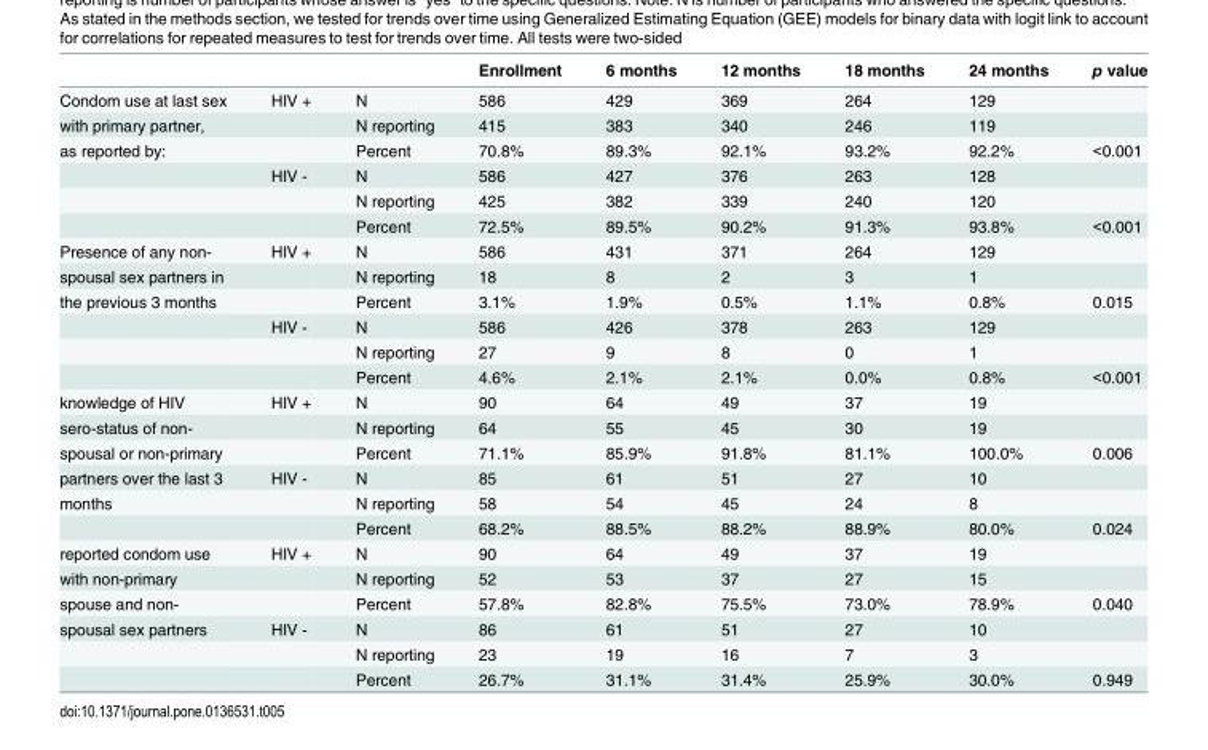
<table><thead><tr><td></td><td></td><td></td><td>Enrollment</td><td>6 months</td><td>12 months</td><td>18 months</td><td>24 months</td><td>p value</td></tr></thead><tbody><tr><td>Condom use at last sex</td><td>HIV +</td><td>N</td><td>586</td><td>429</td><td>369</td><td>264</td><td>129</td><td></td></tr><tr><td>with primary partner,</td><td></td><td>N reporting</td><td>415</td><td>383</td><td>340</td><td>246</td><td>119</td><td></td></tr><tr><td rowspan="4">as reported by:</td><td></td><td>Percent</td><td>70.8%</td><td>89.3%</td><td>92.1%</td><td>93.2%</td><td>92.2%</td><td>&lt;0.001</td></tr><tr><td>HIV -</td><td>N</td><td>586</td><td>427</td><td>376</td><td>263</td><td>128</td><td></td></tr><tr><td></td><td>N reporting</td><td>425</td><td>382</td><td>339</td><td>240</td><td>120</td><td></td></tr><tr><td></td><td>Percent</td><td>72.5%</td><td>89.5%</td><td>90.2%</td><td>91.3%</td><td>93.8%</td><td>&lt;0.001</td></tr><tr><td>Presence of any non-</td><td>HIV +</td><td>N</td><td>586</td><td>431</td><td>371</td><td>264</td><td>129</td><td></td></tr><tr><td>spousal sex partners in</td><td></td><td>N reporting</td><td>18</td><td>8</td><td>2</td><td>3</td><td>1</td><td></td></tr><tr><td rowspan="4">the previous 3 months</td><td></td><td>Percent</td><td>3.1%</td><td>1.9%</td><td>0.5%</td><td>1.1%</td><td>0.8%</td><td>0.015</td></tr><tr><td>HIV -</td><td>N</td><td>586</td><td>426</td><td>378</td><td>263</td><td>129</td><td></td></tr><tr><td></td><td>N reporting</td><td>27</td><td>9</td><td>8</td><td>0</td><td>1</td><td></td></tr><tr><td></td><td>Percent</td><td>4.6%</td><td>2.1%</td><td>2.1%</td><td>0.0%</td><td>0.8%</td><td>&lt;0.001</td></tr><tr><td>knowledge of HIV</td><td>HIV +</td><td>N</td><td>90</td><td>64</td><td>49</td><td>37</td><td>19</td><td></td></tr><tr><td>sero-status of non-</td><td></td><td>N reporting</td><td>64</td><td>55</td><td>45</td><td>30</td><td>19</td><td></td></tr><tr><td>spousal or non-primary</td><td></td><td>Percent</td><td>71.1%</td><td>85.9%</td><td>91.8%</td><td>81.1%</td><td>100.0%</td><td>0.006</td></tr><tr><td>partners over the last 3</td><td>HIV -</td><td>N</td><td>85</td><td>61</td><td>51</td><td>27</td><td>10</td><td></td></tr><tr><td rowspan="2">months</td><td></td><td>N reporting</td><td>58</td><td>54</td><td>45</td><td>24</td><td>8</td><td></td></tr><tr><td></td><td>Percent</td><td>68.2%</td><td>88.5%</td><td>88.2%</td><td>88.9%</td><td>80.0%</td><td>0.024</td></tr><tr><td>reported condom use</td><td>HIV +</td><td>N</td><td>90</td><td>64</td><td>49</td><td>37</td><td>19</td><td></td></tr><tr><td>with non-primary</td><td></td><td>N reporting</td><td>52</td><td>53</td><td>37</td><td>27</td><td>15</td><td></td></tr><tr><td>spouse and non-</td><td></td><td>Percent</td><td>57.8%</td><td>82.8%</td><td>75.5%</td><td>73.0%</td><td>78.9%</td><td>0.040</td></tr><tr><td rowspan="3">spousal sex partners</td><td>HIV -</td><td>N</td><td>86</td><td>61</td><td>51</td><td>27</td><td>10</td><td></td></tr><tr><td></td><td>N reporting</td><td>23</td><td>19</td><td>16</td><td>7</td><td>3</td><td></td></tr><tr><td></td><td>Percent</td><td>26.7%</td><td>31.1%</td><td>31.4%</td><td>25.9%</td><td>30.0%</td><td>0.949</td></tr></tbody></table>